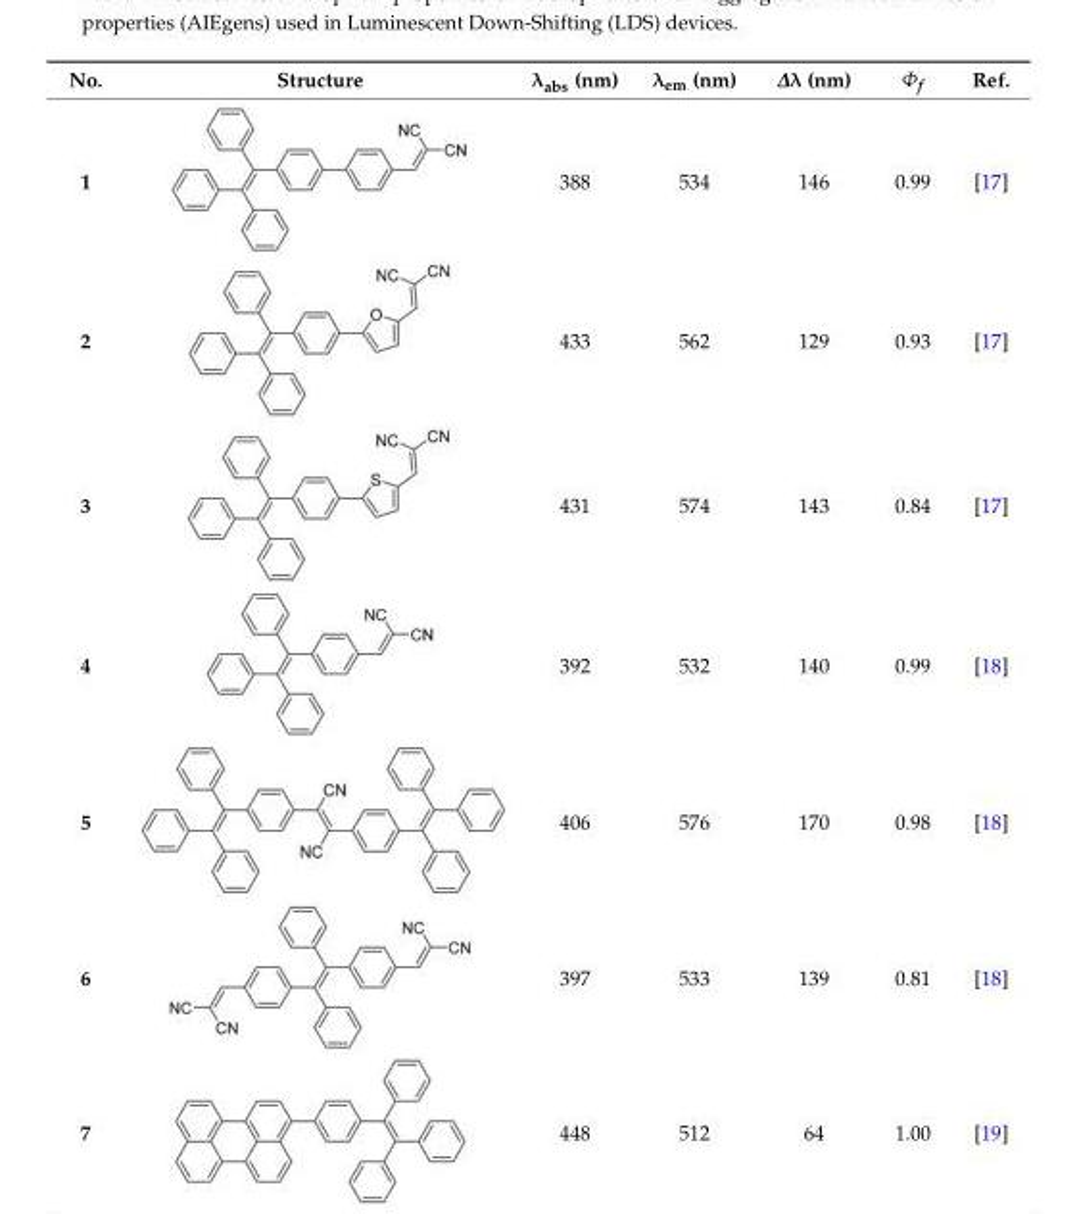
<table><thead><tr><td>No.</td><td>Structure</td><td>λ<sub>abs</sub> (nm)</td><td>λ<sub>em</sub> (nm)</td><td>∆λ (nm)</td><td>Φ<sub>f</sub></td><td>Ref.</td></tr></thead><tbody><tr><td>1</td><td></td><td>388</td><td>534</td><td>146</td><td>0.99</td><td>[17]</td></tr><tr><td>2</td><td></td><td>433</td><td>562</td><td>129</td><td>0.93</td><td>[17]</td></tr><tr><td>3</td><td></td><td>431</td><td>574</td><td>143</td><td>0.84</td><td>[17]</td></tr><tr><td>4</td><td></td><td>392</td><td>532</td><td>140</td><td>0.99</td><td>[18]</td></tr><tr><td>5</td><td></td><td>406</td><td>576</td><td>170</td><td>0.98</td><td>[18]</td></tr><tr><td>6</td><td></td><td>397</td><td>533</td><td>139</td><td>0.81</td><td>[18]</td></tr><tr><td>7</td><td></td><td>448</td><td>512</td><td>64</td><td>1.00</td><td>[19]</td></tr></tbody></table>